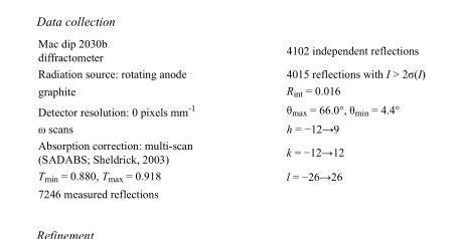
<table><tbody><tr><td>Mac dip 2030b diffractometer</td><td>4102 independent reflections</td></tr><tr><td>Radiation source: rotating anode</td><td>4015 reflections with I &gt; 2σ(I)</td></tr><tr><td>graphite</td><td>R<sub>int</sub> = 0.016</td></tr><tr><td>Detector resolution: 0 pixels mm<sup>-1</sup></td><td>θ<sub>max</sub> = 66.0°, θ<sub>min</sub> = 4.4°</td></tr><tr><td>ω scans</td><td>h = −12→9</td></tr><tr><td>Absorption correction: multi-scan (SADABS; Sheldrick, 2003)</td><td>k = −12→12</td></tr><tr><td>T<sub>min</sub> = 0.880, T<sub>max</sub> = 0.918</td><td>l = −26→26</td></tr><tr><td>7246 measured reflections</td><td></td></tr></tbody></table>